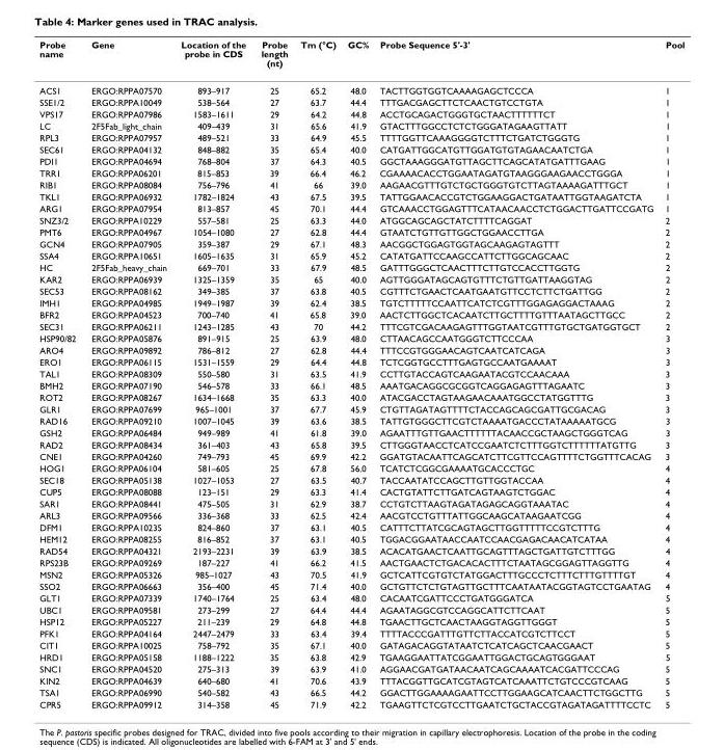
<table><thead><tr><td>Probe name</td><td>Gene</td><td>Location of the probe in CDS</td><td>Probe length (nt)</td><td>Tm (°C)</td><td>GC%</td><td>Probe Sequence 5&#x27;-3&#x27;</td><td>Pool</td></tr></thead><tbody><tr><td>ACS1</td><td>ERGO:RPPA07570</td><td>893–917</td><td>25</td><td>65.2</td><td>48.0</td><td>TACTTGGTGGTCAAAAGAGCTCCCA</td><td>1</td></tr><tr><td>SSE1/2</td><td>ERGO:RPPA10049</td><td>538–564</td><td>27</td><td>63.7</td><td>44.4</td><td>TTTGACGAGCTTCTCAACTGTCCTGTA</td><td>1</td></tr><tr><td>VPS17</td><td>ERGO:RPPA07986</td><td>1583–1611</td><td>29</td><td>64.2</td><td>44.8</td><td>ACCTGCAGACTGGGTGCTAACTTTTTTCT</td><td>1</td></tr><tr><td>LC</td><td>2F5Fab_light_chain</td><td>409–439</td><td>31</td><td>65.6</td><td>41.9</td><td>GTACTTTGGCCTCTCTGGGATAGAAGTTATT</td><td>1</td></tr><tr><td>RPL3</td><td>ERGO:RPPA07957</td><td>489–521</td><td>33</td><td>64.9</td><td>45.5</td><td>TTTTGGTTCAAAGGGGTCTTTCTGATCTGGGTG</td><td>1</td></tr><tr><td>SEC61</td><td>ERGO:RPPA04132</td><td>848–882</td><td>35</td><td>65.4</td><td>40.0</td><td>CATGATTGGCATGTTGGATGTGTAGAACAATCTGA</td><td>1</td></tr><tr><td>PDI1</td><td>ERGO:RPPA04694</td><td>768–804</td><td>37</td><td>64.3</td><td>40.5</td><td>GGCTAAAGGGATGTTAGCTTCAGCATATGATTTGAAG</td><td>1</td></tr><tr><td>TRR1</td><td>ERGO:RPPA06201</td><td>815–853</td><td>39</td><td>66.4</td><td>46.2</td><td>CGAAAACACCTGGAATAGATGTAAGGGAAGAACCTGGGA</td><td>1</td></tr><tr><td>RIB1</td><td>ERGO:RPPA08084</td><td>756–796</td><td>41</td><td>66</td><td>39.0</td><td>AAGAACGTTTGTCTGCTGGGTGTCTTAGTAAAAGATTTGCT</td><td>1</td></tr><tr><td>TKL1</td><td>ERGO:RPPA06932</td><td>1782–1824</td><td>43</td><td>67.5</td><td>39.5</td><td>TATTGGAACACCGTCTGGAAGGACTGATAATTGGTAAGATCTA</td><td>1</td></tr><tr><td>ARG1</td><td>ERGO:RPPA07954</td><td>813–857</td><td>45</td><td>70.1</td><td>44.4</td><td>GTCAAACCTGGAGTTTCATAACAACCTCTGGACTTGATTCCGATG</td><td>1</td></tr><tr><td>SNZ3/2</td><td>ERGO:RPPA10229</td><td>557–581</td><td>25</td><td>63.3</td><td>44.0</td><td>ATGGCAGCAGCTATCTTTTCAGGAT</td><td>2</td></tr><tr><td>PMT6</td><td>ERGO:RPPA04967</td><td>1054–1080</td><td>27</td><td>62.8</td><td>44.4</td><td>GTAATCTGTTGTTGGCTGGAACCTTGA</td><td>2</td></tr><tr><td>GCN4</td><td>ERGO:RPPA07905</td><td>359–387</td><td>29</td><td>67.1</td><td>48.3</td><td>AACGGCTGGAGTGGTAGCAAGAGTAGTTT</td><td>2</td></tr><tr><td>SSA4</td><td>ERGO:RPPA10651</td><td>1605–1635</td><td>31</td><td>65.9</td><td>45.2</td><td>CATATGATTCCAAGCCATTCTTGGCAGCAAC</td><td>2</td></tr><tr><td>HC</td><td>2F5Fab_heavy_chain</td><td>669–701</td><td>33</td><td>67.9</td><td>48.5</td><td>GATTTGGGCTCAACTTTCTTGTCCACCTTGGTG</td><td>2</td></tr><tr><td>KAR2</td><td>ERGO:RPPA06939</td><td>1325–1359</td><td>35</td><td>65</td><td>40.0</td><td>AGTTGGGATAGCAGTGTTTCTGTTGATTAAGGTAG</td><td>2</td></tr><tr><td>SEC53</td><td>ERGO:RPPA08162</td><td>349–385</td><td>37</td><td>63.8</td><td>40.5</td><td>CGTTTCTGAACTCAATGAATGTTCCTCTTCTGATTGG</td><td>2</td></tr><tr><td>IMH1</td><td>ERGO:RPPA04985</td><td>1949–1987</td><td>39</td><td>62.4</td><td>38.5</td><td>TGTCTTTTTCCAATTCATCTCGTTTGGAGAGGACTAAAG</td><td>2</td></tr><tr><td>BFR2</td><td>ERGO:RPPA04523</td><td>700–740</td><td>41</td><td>65.8</td><td>39.0</td><td>AACTCTTGGCTCACAATCTTGCTTTTGTTTAATAGCTTGCC</td><td>2</td></tr><tr><td>SEC31</td><td>ERGO:RPPA06211</td><td>1243–1285</td><td>43</td><td>70</td><td>44.2</td><td>TTTCGTCGACAAGAGTTTGGTAATCGTTTGTGCTGATGGTGCT</td><td>2</td></tr><tr><td>HSP90/82</td><td>ERGO:RPPA05876</td><td>891–915</td><td>25</td><td>63.9</td><td>48.0</td><td>CTTAACAGCCAATGGGTCTTCCCAA</td><td>3</td></tr><tr><td>ARO4</td><td>ERGO:RPPA09892</td><td>786–812</td><td>27</td><td>62.8</td><td>44.4</td><td>TTTCCGTGGGAACAGTCAATCATCAGA</td><td>3</td></tr><tr><td>ERO1</td><td>ERGO:RPPA06115</td><td>1531–1559</td><td>29</td><td>64.4</td><td>44.8</td><td>TCTCGGTGCCTTTGAGTGCCAATGAAAAT</td><td>3</td></tr><tr><td>TAL1</td><td>ERGO:RPPA08309</td><td>550–580</td><td>31</td><td>63.5</td><td>41.9</td><td>CCTTGTACCAGTCAAGAATACGTCCAACAAA</td><td>3</td></tr><tr><td>BMH2</td><td>ERGO:RPPA07190</td><td>546–578</td><td>33</td><td>66.1</td><td>48.5</td><td>AAATGACAGGCGCGGTCAGGAGAGTTTAGAATC</td><td>3</td></tr><tr><td>ROT2</td><td>ERGO:RPPA08267</td><td>1634–1668</td><td>35</td><td>63.3</td><td>40.0</td><td>ATACGACCTAGTAAGAACAAATGGCCTATGGTTTG</td><td>3</td></tr><tr><td>GLR1</td><td>ERGO:RPPA07699</td><td>965–1001</td><td>37</td><td>67.7</td><td>45.9</td><td>CTGTTAGATAGTTTTCTACCAGCAGCGATTGCGACAG</td><td>3</td></tr><tr><td>RAD16</td><td>ERGO:RPPA09210</td><td>1007–1045</td><td>39</td><td>63.6</td><td>38.5</td><td>TATTGTGGGCTTCGTCTAAAATGACCCTATAAAAATGCG</td><td>3</td></tr><tr><td>GSH2</td><td>ERGO:RPPA06484</td><td>949–989</td><td>41</td><td>61.8</td><td>39.0</td><td>AGAATTTGTTGAACTTTTTTACAACCGCTAAGCTGGGTCAG</td><td>3</td></tr><tr><td>RAD2</td><td>ERGO:RPPA08434</td><td>361–403</td><td>43</td><td>65.8</td><td>39.5</td><td>CTTGGGTAACCTCATCCGAATCTCTTTGGTCTTTTTTATGTTG</td><td>3</td></tr><tr><td>CNE1</td><td>ERGO:RPPA04260</td><td>749–793</td><td>45</td><td>69.9</td><td>42.2</td><td>GGATGTACAATTCAGCATCTTCGTTCCAGTTTTCTGGTTTCACAG</td><td>3</td></tr><tr><td>HOG1</td><td>ERGO:RPPA06104</td><td>581–605</td><td>25</td><td>67.8</td><td>56.0</td><td>TCATCTCGGCGAAAATGCACCCTGC</td><td>4</td></tr><tr><td>SEC18</td><td>ERGO:RPPA05138</td><td>1027–1053</td><td>27</td><td>63.5</td><td>40.7</td><td>TACCAATATCCAGCTTGTTGGTACCAA</td><td>4</td></tr><tr><td>CUP5</td><td>ERGO:RPPA08088</td><td>123–151</td><td>29</td><td>63.3</td><td>41.4</td><td>CACTGTATTCTTGATCAGTAAGTCTGGAC</td><td>4</td></tr><tr><td>SAR1</td><td>ERGO:RPPA08441</td><td>475–505</td><td>31</td><td>62.9</td><td>38.7</td><td>CCTGTCTTAAGTAGATAGAGCAGGTAAATAC</td><td>4</td></tr><tr><td>ARL3</td><td>ERGO:RPPA09566</td><td>336–368</td><td>33</td><td>62.5</td><td>42.4</td><td>AACGTCCTGTTTATTGGCAAGCATAAGAATCGG</td><td>4</td></tr><tr><td>DFM1</td><td>ERGO:RPPA10235</td><td>824–860</td><td>37</td><td>63.1</td><td>40.5</td><td>CATTTCTTATCGCAGTAGCTTGGTTTTTCCGTCTTTG</td><td>4</td></tr><tr><td>HEM12</td><td>ERGO:RPPA08255</td><td>816–852</td><td>37</td><td>63.1</td><td>40.5</td><td>TGGACGGAATAACCAATCCAACGAGACAACATCATAA</td><td>4</td></tr><tr><td>RAD54</td><td>ERGO:RPPA04321</td><td>2193–2231</td><td>39</td><td>63.9</td><td>38.5</td><td>ACACATGAACTCAATTGCAGTTTAGCTGATTGTCTTTGG</td><td>4</td></tr><tr><td>RPS23B</td><td>ERGO:RPPA09269</td><td>187–227</td><td>41</td><td>66.2</td><td>41.5</td><td>AACTGAACTCTGACACACTTTCTAATAGCGGAGTTAGGTTG</td><td>4</td></tr><tr><td>MSN2</td><td>ERGO:RPPA05326</td><td>985–1027</td><td>43</td><td>70.5</td><td>41.9</td><td>GCTCATTCGTGTCTATGGACTTTGCCCTCTTTCTTTGTTTTGT</td><td>4</td></tr><tr><td>SSO2</td><td>ERGO:RPPA06663</td><td>356–400</td><td>45</td><td>71.4</td><td>40.0</td><td>GCTGTTCTCTGTAGTTGCTTTCAATAATACGGTAGTCCTGAATAG</td><td>4</td></tr><tr><td>GLT1</td><td>ERGO:RPPA07339</td><td>1740–1764</td><td>25</td><td>63.4</td><td>48.0</td><td>CACAATCGATTCCCTGATGGGATCA</td><td>5</td></tr><tr><td>UBC1</td><td>ERGO:RPPA09581</td><td>273–299</td><td>27</td><td>64.4</td><td>44.4</td><td>AGAATAGGCGTCCAGGCATTCTTCAAT</td><td>5</td></tr><tr><td>HSP12</td><td>ERGO:RPPA05227</td><td>211–239</td><td>29</td><td>64.8</td><td>44.8</td><td>TGAACTTGCTCAACTAAGGTAGGTTGGGT</td><td>5</td></tr><tr><td>PFK1</td><td>ERGO:RPPA04164</td><td>2447–2479</td><td>33</td><td>63.4</td><td>39.4</td><td>TTTTACCCGATTTGTTCTTACCATCGTCTTCCT</td><td>5</td></tr><tr><td>CIT1</td><td>ERGO:RPPA10025</td><td>758–792</td><td>35</td><td>67.1</td><td>40.0</td><td>GATAGACAGGTATAATCTCATCAGCTCAACGAACT</td><td>5</td></tr><tr><td>HRD1</td><td>ERGO:RPPA05158</td><td>1188–1222</td><td>35</td><td>63.8</td><td>42.9</td><td>TGAAGGAATTATCGGAATTGGACTGCAGTGGGAAT</td><td>5</td></tr><tr><td>SNC1</td><td>ERGO:RPPA04520</td><td>275–313</td><td>39</td><td>63.9</td><td>41.0</td><td>AGGAACGATGATAACAATCAGCAAAATCACGATTCCCAG</td><td>5</td></tr><tr><td>KIN2</td><td>ERGO:RPPA04639</td><td>640–680</td><td>41</td><td>70.6</td><td>43.9</td><td>TTTACGGTTGCATCGTAGTCATCAAATTCTGTCCCGTCAAG</td><td>5</td></tr><tr><td>TSA1</td><td>ERGO:RPPA06990</td><td>540–582</td><td>43</td><td>66.5</td><td>44.2</td><td>GGACTTGGAAAAGAATTCCTTGGAAGCATCAACTTCTGGCTTG</td><td>5</td></tr><tr><td>CPR5</td><td>ERGO:RPPA09912</td><td>314–358</td><td>45</td><td>71.9</td><td>42.2</td><td>TGAAGTTCTCGTCCTTGAATCTGCTACCGTAGATAGATTTTCCTC</td><td>5</td></tr></tbody></table>